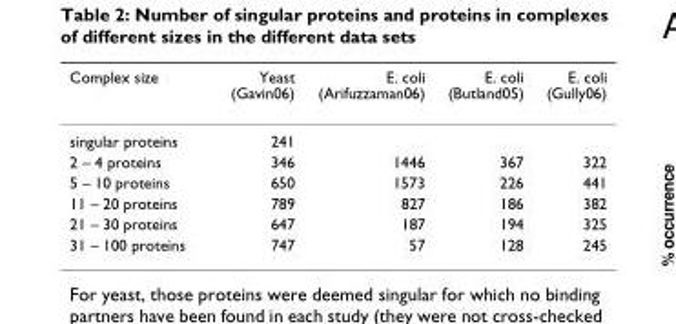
<table><thead><tr><td>Complex size</td><td>Yeast (Gavin06)</td><td>E. coli (Arifuzzaman06)</td><td>E. coli (Butland05)</td><td>E. coli (Gully06)</td></tr></thead><tbody><tr><td>singular proteins</td><td>241</td><td></td><td></td><td></td></tr><tr><td>2 – 4 proteins</td><td>346</td><td>1446</td><td>367</td><td>322</td></tr><tr><td>5 – 10 proteins</td><td>650</td><td>1573</td><td>226</td><td>441</td></tr><tr><td>11 – 20 proteins</td><td>789</td><td>827</td><td>186</td><td>382</td></tr><tr><td>21 – 30 proteins</td><td>647</td><td>187</td><td>194</td><td>325</td></tr><tr><td>31 – 100 proteins</td><td>747</td><td>57</td><td>128</td><td>245</td></tr></tbody></table>